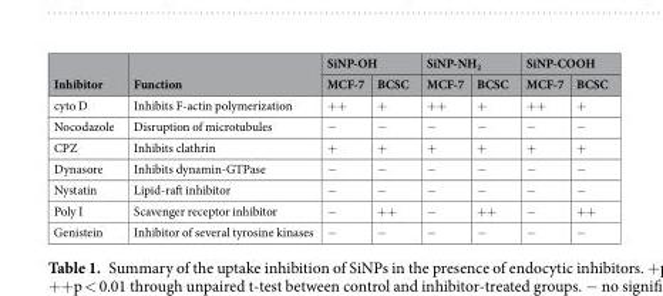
<table><thead><tr><td rowspan="2">Inhibitor</td><td rowspan="2">Function</td><td colspan="2">SiNP-OH</td><td colspan="2">SiNP-NH<sub>2</sub></td><td colspan="2">SiNP-COOH</td></tr><tr><td>MCF-7</td><td>BCSC</td><td>MCF-7</td><td>BCSC</td><td>MCF-7</td><td>BCSC</td></tr></thead><tbody><tr><td>cyto D</td><td>Inhibits F-actin polymerization</td><td>++</td><td>+</td><td>++</td><td>+</td><td>++</td><td>+</td></tr><tr><td>Nocodazole</td><td>Disruption of microtubules</td><td>−</td><td>−</td><td>−</td><td>−</td><td>−</td><td>−</td></tr><tr><td>CPZ</td><td>Inhibits clathrin</td><td>+</td><td>+</td><td>+</td><td>+</td><td>+</td><td>+</td></tr><tr><td>Dynasore</td><td>Inhibits dynamin-GTPase</td><td>−</td><td>−</td><td>−</td><td>−</td><td>−</td><td>−</td></tr><tr><td>Nystatin</td><td>Lipid-raft inhibitor</td><td>−</td><td>−</td><td>−</td><td>−</td><td>−</td><td>−</td></tr><tr><td>Poly I</td><td>Scavenger receptor inhibitor</td><td>−</td><td>++</td><td>−</td><td>++</td><td>−</td><td>++</td></tr><tr><td>Genistein</td><td>Inhibitor of several tyrosine kinases</td><td>−</td><td>−</td><td>−</td><td>−</td><td>−</td><td>−</td></tr></tbody></table>